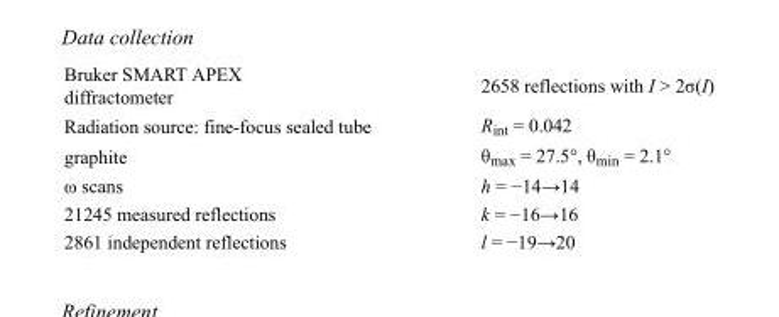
<table><tbody><tr><td>Bruker SMART APEX diffractometer</td><td>2658 reflections with I &gt; 2σ(I)</td></tr><tr><td>Radiation source: fine-focus sealed tube</td><td>R<sub>int</sub> = 0.042</td></tr><tr><td>graphite</td><td>θ<sub>max</sub> = 27.5°, θ<sub>min</sub> = 2.1°</td></tr><tr><td>ω scans</td><td>h = −14→14</td></tr><tr><td>21245 measured reflections</td><td>k = −16→16</td></tr><tr><td>2861 independent reflections</td><td>l = −19→20</td></tr></tbody></table>